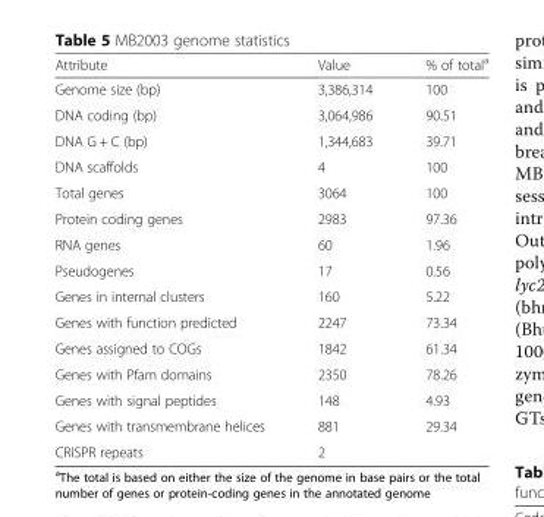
<table><thead><tr><td>Attribute</td><td>Value</td><td>% of total<sup>a</sup></td></tr></thead><tbody><tr><td>Genome size (bp)</td><td>3,386,314</td><td>100</td></tr><tr><td>DNA coding (bp)</td><td>3,064,986</td><td>90.51</td></tr><tr><td>DNA G + C (bp)</td><td>1,344,683</td><td>39.71</td></tr><tr><td>DNA scaffolds</td><td>4</td><td>100</td></tr><tr><td>Total genes</td><td>3064</td><td>100</td></tr><tr><td>Protein coding genes</td><td>2983</td><td>97.36</td></tr><tr><td>RNA genes</td><td>60</td><td>1.96</td></tr><tr><td>Pseudogenes</td><td>17</td><td>0.56</td></tr><tr><td>Genes in internal clusters</td><td>160</td><td>5.22</td></tr><tr><td>Genes with function predicted</td><td>2247</td><td>73.34</td></tr><tr><td>Genes assigned to COGs</td><td>1842</td><td>61.34</td></tr><tr><td>Genes with Pfam domains</td><td>2350</td><td>78.26</td></tr><tr><td>Genes with signal peptides</td><td>148</td><td>4.93</td></tr><tr><td>Genes with transmembrane helices</td><td>881</td><td>29.34</td></tr><tr><td>CRISPR repeats</td><td>2</td><td></td></tr></tbody></table>